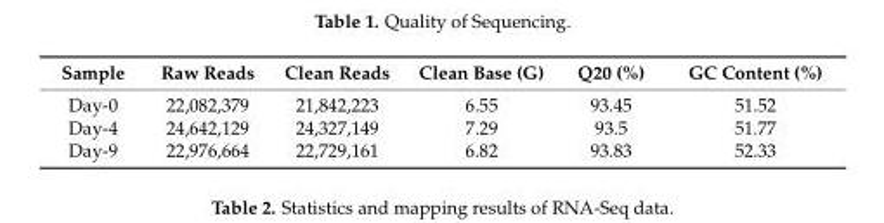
<table><thead><tr><td>Sample</td><td>Raw Reads</td><td>Clean Reads</td><td>Clean Base (G)</td><td>Q20 (%)</td><td>GC Content (%)</td></tr></thead><tbody><tr><td>Day-0</td><td>22,082,379</td><td>21,842,223</td><td>6.55</td><td>93.45</td><td>51.52</td></tr><tr><td>Day-4</td><td>24,642,129</td><td>24,327,149</td><td>7.29</td><td>93.5</td><td>51.77</td></tr><tr><td>Day-9</td><td>22,976,664</td><td>22,729,161</td><td>6.82</td><td>93.83</td><td>52.33</td></tr></tbody></table>